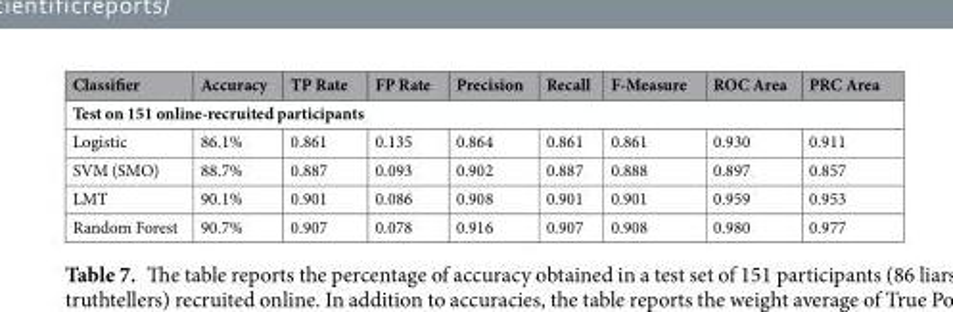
<table><thead><tr><td>Classifier</td><td>Accuracy</td><td>TP Rate</td><td>FP Rate</td><td>Precision</td><td>Recall</td><td>F-Measure</td><td>ROC Area</td><td>PRC Area</td></tr></thead><tbody><tr><td colspan="9">Test on 151 online-recruited participants</td></tr><tr><td>Logistic</td><td>86.1%</td><td>0.861</td><td>0.135</td><td>0.864</td><td>0.861</td><td>0.861</td><td>0.930</td><td>0.911</td></tr><tr><td>SVM (SMO)</td><td>88.7%</td><td>0.887</td><td>0.093</td><td>0.902</td><td>0.887</td><td>0.888</td><td>0.897</td><td>0.857</td></tr><tr><td>LMT</td><td>90.1%</td><td>0.901</td><td>0.086</td><td>0.908</td><td>0.901</td><td>0.901</td><td>0.959</td><td>0.953</td></tr><tr><td>Random Forest</td><td>90.7%</td><td>0.907</td><td>0.078</td><td>0.916</td><td>0.907</td><td>0.908</td><td>0.980</td><td>0.977</td></tr></tbody></table>